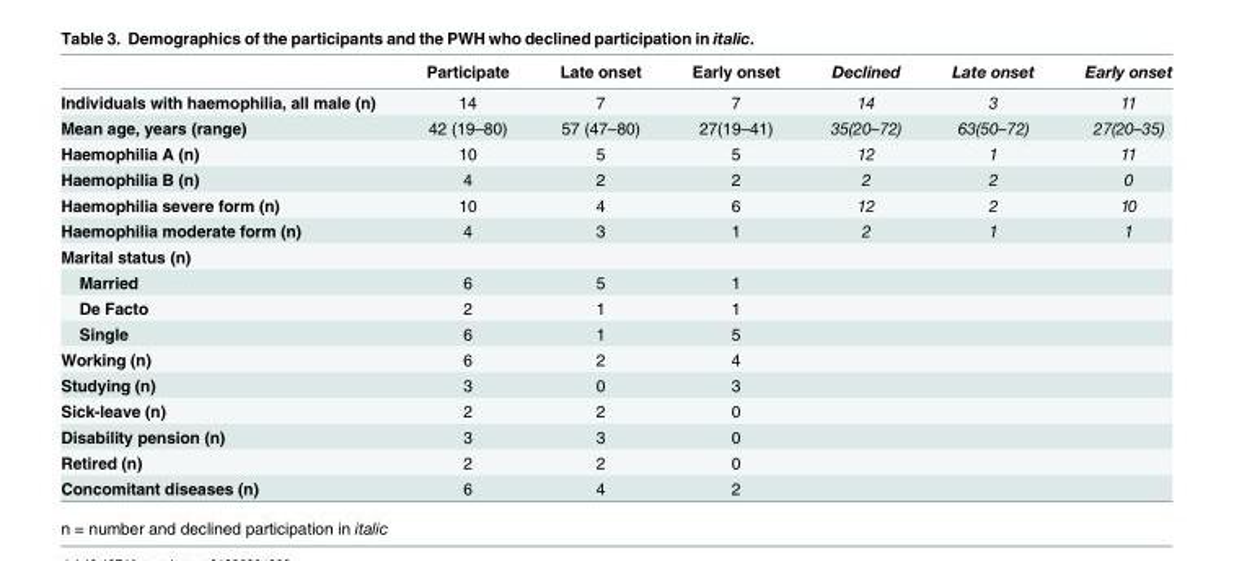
<table><thead><tr><td></td><td>Participate</td><td>Late onset</td><td>Early onset</td><td>Declined</td><td>Late onset</td><td>Early onset</td></tr></thead><tbody><tr><td>Individuals with haemophilia, all male (n)</td><td>14</td><td>7</td><td>7</td><td>14</td><td>3</td><td>11</td></tr><tr><td>Mean age, years (range)</td><td>42 (19–80)</td><td>57 (47–80)</td><td>27(19–41)</td><td>35(20–72)</td><td>63(50–72)</td><td>27(20–35)</td></tr><tr><td>Haemophilia A (n)</td><td>10</td><td>5</td><td>5</td><td>12</td><td>1</td><td>11</td></tr><tr><td>Haemophilia B (n)</td><td>4</td><td>2</td><td>2</td><td>2</td><td>2</td><td>0</td></tr><tr><td>Haemophilia severe form (n)</td><td>10</td><td>4</td><td>6</td><td>12</td><td>2</td><td>10</td></tr><tr><td>Haemophilia moderate form (n)</td><td>4</td><td>3</td><td>1</td><td>2</td><td>1</td><td>1</td></tr><tr><td colspan="7">Marital status (n)</td></tr><tr><td>Married</td><td>6</td><td>5</td><td>1</td><td></td><td></td><td></td></tr><tr><td>De Facto</td><td>2</td><td>1</td><td>1</td><td></td><td></td><td></td></tr><tr><td>Single</td><td>6</td><td>1</td><td>5</td><td></td><td></td><td></td></tr><tr><td>Working (n)</td><td>6</td><td>2</td><td>4</td><td></td><td></td><td></td></tr><tr><td>Studying (n)</td><td>3</td><td>0</td><td>3</td><td></td><td></td><td></td></tr><tr><td>Sick-leave (n)</td><td>2</td><td>2</td><td>0</td><td></td><td></td><td></td></tr><tr><td>Disability pension (n)</td><td>3</td><td>3</td><td>0</td><td></td><td></td><td></td></tr><tr><td>Retired (n)</td><td>2</td><td>2</td><td>0</td><td></td><td></td><td></td></tr><tr><td>Concomitant diseases (n)</td><td>6</td><td>4</td><td>2</td><td></td><td></td><td></td></tr></tbody></table>